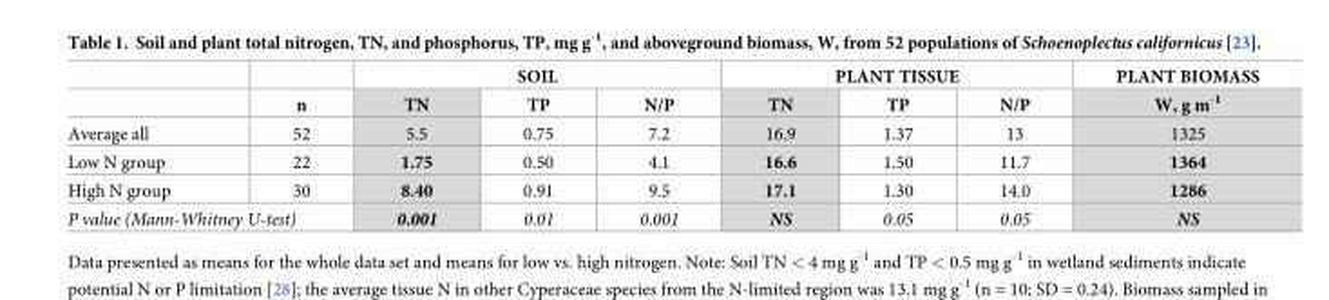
<table><thead><tr><td rowspan="2"></td><td rowspan="2">n</td><td colspan="3">SOIL</td><td colspan="3">PLANT TISSUE</td><td rowspan="2">PLANT BIOMASS W, g m<sup>-1</sup></td></tr><tr><td>TN</td><td>TP</td><td>N/P</td><td>TN</td><td>TP</td><td>N/P</td></tr></thead><tbody><tr><td>Average all</td><td>52</td><td>5.5</td><td>0.75</td><td>7.2</td><td>16.9</td><td>1.37</td><td>13</td><td>1325</td></tr><tr><td>Low N group</td><td>22</td><td>1.75</td><td>0.50</td><td>4.1</td><td>16.6</td><td>1.50</td><td>11.7</td><td>1364</td></tr><tr><td>High N group</td><td>30</td><td>8.40</td><td>0.91</td><td>9.5</td><td>17.1</td><td>1.30</td><td>14.0</td><td>1286</td></tr><tr><td colspan="2">P value (Mann-Whitney U-test)</td><td>0.001</td><td>0.01</td><td>0.001</td><td>NS</td><td>0.05</td><td>0.05</td><td>NS</td></tr></tbody></table>